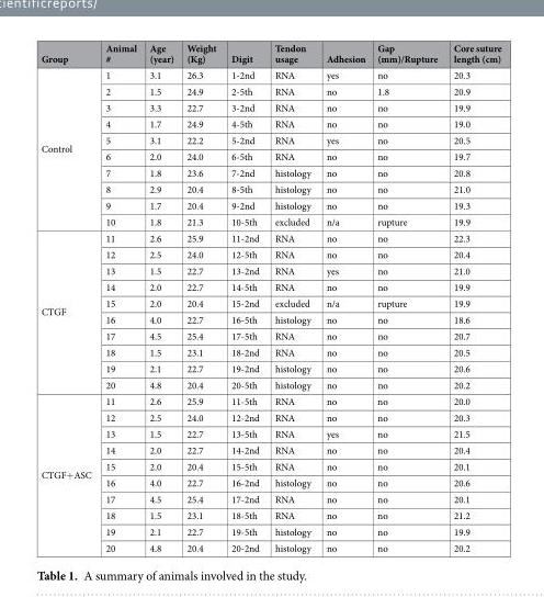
<table><thead><tr><td>Group</td><td>Animal #</td><td>Age (year)</td><td>Weight (Kg)</td><td>Digit</td><td>Tendon usage</td><td>Adhesion</td><td>Gap (mm)/Rupture</td><td>Core suture length (cm)</td></tr></thead><tbody><tr><td rowspan="10">Control</td><td>1</td><td>3.1</td><td>26.3</td><td>1-2nd</td><td>RNA</td><td>yes</td><td>no</td><td>20.3</td></tr><tr><td>2</td><td>1.5</td><td>24.9</td><td>2-5th</td><td>RNA</td><td>no</td><td>1.8</td><td>20.9</td></tr><tr><td>3</td><td>3.3</td><td>22.7</td><td>3-2nd</td><td>RNA</td><td>no</td><td>no</td><td>19.9</td></tr><tr><td>4</td><td>1.7</td><td>24.9</td><td>4-5th</td><td>RNA</td><td>no</td><td>no</td><td>19.0</td></tr><tr><td>5</td><td>3.1</td><td>22.2</td><td>5-2nd</td><td>RNA</td><td>yes</td><td>no</td><td>20.5</td></tr><tr><td>6</td><td>2.0</td><td>24.0</td><td>6-5th</td><td>RNA</td><td>no</td><td>no</td><td>19.7</td></tr><tr><td>7</td><td>1.8</td><td>23.6</td><td>7-2nd</td><td>histology</td><td>no</td><td>no</td><td>20.8</td></tr><tr><td>8</td><td>2.9</td><td>20.4</td><td>8-5th</td><td>histology</td><td>no</td><td>no</td><td>21.0</td></tr><tr><td>9</td><td>1.7</td><td>20.4</td><td>9-2nd</td><td>histology</td><td>no</td><td>no</td><td>19.3</td></tr><tr><td>10</td><td>1.8</td><td>21.3</td><td>10-5th</td><td>excluded</td><td>n/a</td><td>rupture</td><td>19.9</td></tr><tr><td rowspan="10">CTGF</td><td>11</td><td>2.6</td><td>25.9</td><td>11-2nd</td><td>RNA</td><td>no</td><td>no</td><td>22.3</td></tr><tr><td>12</td><td>2.5</td><td>24.0</td><td>12-5th</td><td>RNA</td><td>no</td><td>no</td><td>20.4</td></tr><tr><td>13</td><td>1.5</td><td>22.7</td><td>13-2nd</td><td>RNA</td><td>yes</td><td>no</td><td>21.0</td></tr><tr><td>14</td><td>2.0</td><td>22.7</td><td>14-5th</td><td>RNA</td><td>no</td><td>no</td><td>19.9</td></tr><tr><td>15</td><td>2.0</td><td>20.4</td><td>15-2nd</td><td>excluded</td><td>n/a</td><td>rupture</td><td>19.9</td></tr><tr><td>16</td><td>4.0</td><td>22.7</td><td>16-5th</td><td>histology</td><td>no</td><td>no</td><td>18.6</td></tr><tr><td>17</td><td>4.5</td><td>25.4</td><td>17-5th</td><td>RNA</td><td>no</td><td>no</td><td>20.7</td></tr><tr><td>18</td><td>1.5</td><td>23.1</td><td>18-2nd</td><td>RNA</td><td>no</td><td>no</td><td>20.5</td></tr><tr><td>19</td><td>2.1</td><td>22.7</td><td>19-2nd</td><td>histology</td><td>no</td><td>no</td><td>20.6</td></tr><tr><td>20</td><td>4.8</td><td>20.4</td><td>20-5th</td><td>histology</td><td>no</td><td>no</td><td>20.2</td></tr><tr><td rowspan="10">CTGF+ASC</td><td>11</td><td>2.6</td><td>25.9</td><td>11-5th</td><td>RNA</td><td>no</td><td>no</td><td>20.0</td></tr><tr><td>12</td><td>2.5</td><td>24.0</td><td>12-2nd</td><td>RNA</td><td>no</td><td>no</td><td>20.3</td></tr><tr><td>13</td><td>1.5</td><td>22.7</td><td>13-5th</td><td>RNA</td><td>yes</td><td>no</td><td>21.5</td></tr><tr><td>14</td><td>2.0</td><td>22.7</td><td>14-2nd</td><td>RNA</td><td>no</td><td>no</td><td>20.4</td></tr><tr><td>15</td><td>2.0</td><td>20.4</td><td>15-5th</td><td>RNA</td><td>no</td><td>no</td><td>20.1</td></tr><tr><td>16</td><td>4.0</td><td>22.7</td><td>16-2nd</td><td>histology</td><td>no</td><td>no</td><td>20.6</td></tr><tr><td>17</td><td>4.5</td><td>25.4</td><td>17-2nd</td><td>RNA</td><td>no</td><td>no</td><td>20.1</td></tr><tr><td>18</td><td>1.5</td><td>23.1</td><td>18-5th</td><td>RNA</td><td>no</td><td>no</td><td>21.2</td></tr><tr><td>19</td><td>2.1</td><td>22.7</td><td>19-5th</td><td>histology</td><td>no</td><td>no</td><td>19.9</td></tr><tr><td>20</td><td>4.8</td><td>20.4</td><td>20-2nd</td><td>histology</td><td>no</td><td>no</td><td>20.2</td></tr></tbody></table>